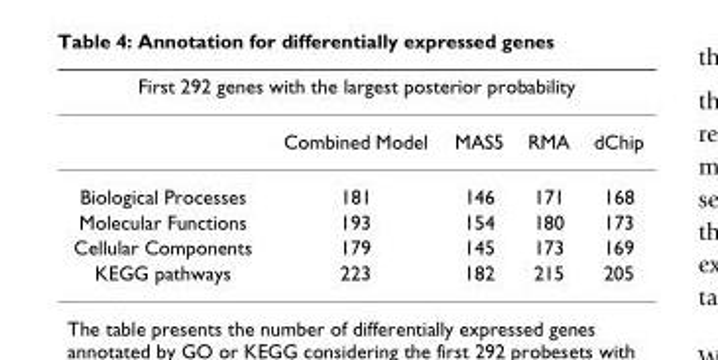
<table><thead><tr><td colspan="5">First 292 genes with the largest posterior probability</td></tr><tr><td></td><td>Combined Model</td><td>MAS5</td><td>RMA</td><td>dChip</td></tr></thead><tbody><tr><td>Biological Processes</td><td>181</td><td>146</td><td>171</td><td>168</td></tr><tr><td>Molecular Functions</td><td>193</td><td>154</td><td>180</td><td>173</td></tr><tr><td>Cellular Components</td><td>179</td><td>145</td><td>173</td><td>169</td></tr><tr><td>KEGG pathways</td><td>223</td><td>182</td><td>215</td><td>205</td></tr></tbody></table>